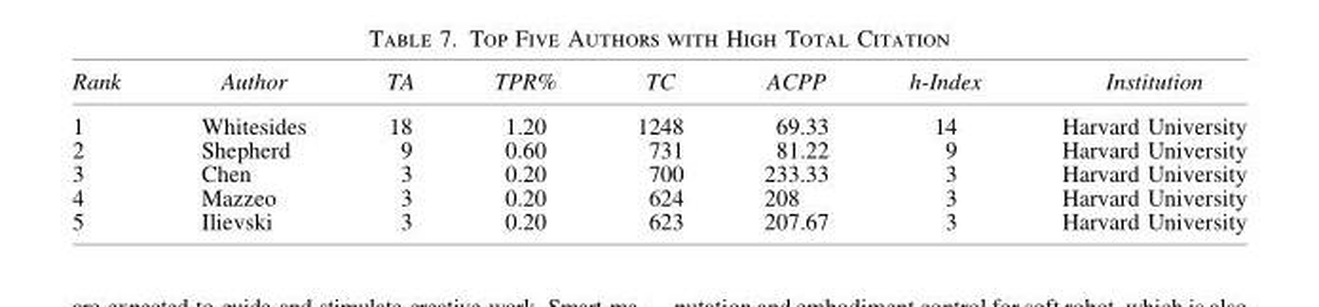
<table><thead><tr><td>Rank</td><td>Author</td><td>TA</td><td>TPR%</td><td>TC</td><td>ACPP</td><td>h-Index</td><td>Institution</td></tr></thead><tbody><tr><td>1</td><td>Whitesides</td><td>18</td><td>1.20</td><td>1248</td><td>69.33</td><td>14</td><td>Harvard University</td></tr><tr><td>2</td><td>Shepherd</td><td>9</td><td>0.60</td><td>731</td><td>81.22</td><td>9</td><td>Harvard University</td></tr><tr><td>3</td><td>Chen</td><td>3</td><td>0.20</td><td>700</td><td>233.33</td><td>3</td><td>Harvard University</td></tr><tr><td>4</td><td>Mazzeo</td><td>3</td><td>0.20</td><td>624</td><td>208</td><td>3</td><td>Harvard University</td></tr><tr><td>5</td><td>Ilievski</td><td>3</td><td>0.20</td><td>623</td><td>207.67</td><td>3</td><td>Harvard University</td></tr></tbody></table>